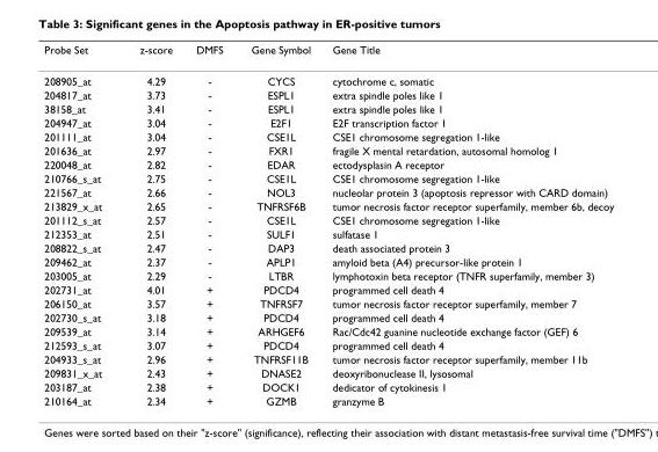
<table><thead><tr><td>Probe Set</td><td>z-score</td><td>DMFS</td><td>Gene Symbol</td><td>Gene Title</td></tr></thead><tbody><tr><td>208905_at</td><td>4.29</td><td>-</td><td>CYCS</td><td>cytochrome c, somatic</td></tr><tr><td>204817_at</td><td>3.73</td><td>-</td><td>ESPL1</td><td>extra spindle poles like 1</td></tr><tr><td>38158_at</td><td>3.41</td><td>-</td><td>ESPL1</td><td>extra spindle poles like 1</td></tr><tr><td>204947_at</td><td>3.04</td><td>-</td><td>E2F1</td><td>E2F transcription factor 1</td></tr><tr><td>201111_at</td><td>3.04</td><td>-</td><td>CSE1L</td><td>CSE1 chromosome segregation 1-like</td></tr><tr><td>201636_at</td><td>2.97</td><td>-</td><td>FXR1</td><td>fragile X mental retardation, autosomal homolog 1</td></tr><tr><td>220048_at</td><td>2.82</td><td>-</td><td>EDAR</td><td>ectodysplasin A receptor</td></tr><tr><td>210766_s_at</td><td>2.75</td><td>-</td><td>CSE1L</td><td>CSE1 chromosome segregation 1-like</td></tr><tr><td>221567_at</td><td>2.66</td><td>-</td><td>NOL3</td><td>nucleolar protein 3 (apoptosis repressor with CARD domain)</td></tr><tr><td>213829_x_at</td><td>2.65</td><td>-</td><td>TNFRSF6B</td><td>tumor necrosis factor receptor superfamily, member 6b, decoy</td></tr><tr><td>201112_s_at</td><td>2.57</td><td>-</td><td>CSE1L</td><td>CSE1 chromosome segregation 1-like</td></tr><tr><td>212353_at</td><td>2.51</td><td>-</td><td>SULF1</td><td>sulfatase 1</td></tr><tr><td>208822_s_at</td><td>2.47</td><td>-</td><td>DAP3</td><td>death associated protein 3</td></tr><tr><td>209462_at</td><td>2.37</td><td>-</td><td>APLP1</td><td>amyloid beta (A4) precursor-like protein 1</td></tr><tr><td>203005_at</td><td>2.29</td><td>-</td><td>LTBR</td><td>lymphotoxin beta receptor (TNFR superfamily, member 3)</td></tr><tr><td>202731_at</td><td>4.01</td><td>+</td><td>PDCD4</td><td>programmed cell death 4</td></tr><tr><td>206150_at</td><td>3.57</td><td>+</td><td>TNFRSF7</td><td>tumor necrosis factor receptor superfamily, member 7</td></tr><tr><td>202730_s_at</td><td>3.18</td><td>+</td><td>PDCD4</td><td>programmed cell death 4</td></tr><tr><td>209539_at</td><td>3.14</td><td>+</td><td>ARHGEF6</td><td>Rac/Cdc42 guanine nucleotide exchange factor (GEF) 6</td></tr><tr><td>212593_s_at</td><td>3.07</td><td>+</td><td>PDCD4</td><td>programmed cell death 4</td></tr><tr><td>204933_s_at</td><td>2.96</td><td>+</td><td>TNFRSF11B</td><td>tumor necrosis factor receptor superfamily, member 11b</td></tr><tr><td>209831_x_at</td><td>2.43</td><td>+</td><td>DNASE2</td><td>deoxyribonuclease II, lysosomal</td></tr><tr><td>203187_at</td><td>2.38</td><td>+</td><td>DOCK1</td><td>dedicator of cytokinesis 1</td></tr><tr><td>210164_at</td><td>2.34</td><td>+</td><td>GZMB</td><td>granzyme B</td></tr></tbody></table>